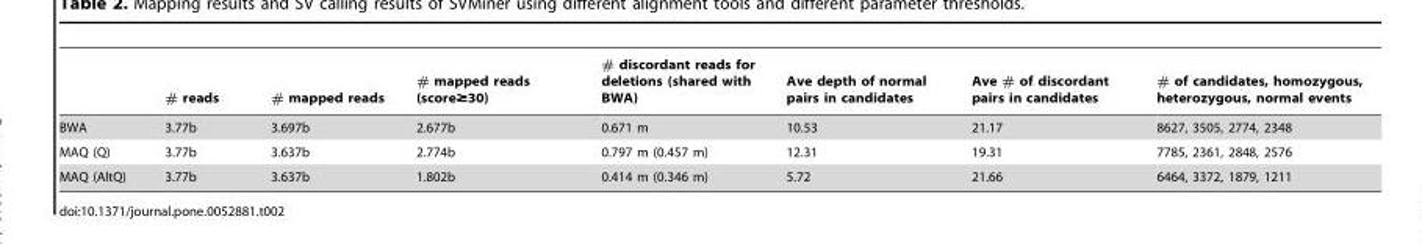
<table><thead><tr><td></td><td># reads</td><td># mapped reads</td><td># mapped reads (score≥30)</td><td># discordant reads for deletions (shared with BWA)</td><td>Ave depth of normal pairs in candidates</td><td>Ave # of discordant pairs in candidates</td><td># of candidates, homozygous, heterozygous, normal events</td></tr></thead><tbody><tr><td>BWA</td><td>3.77b</td><td>3.697b</td><td>2.677b</td><td>0.671 m</td><td>10.53</td><td>21.17</td><td>8627, 3505, 2774, 2348</td></tr><tr><td>MAQ (Q)</td><td>3.77b</td><td>3.637b</td><td>2.774b</td><td>0.797 m (0.457 m)</td><td>12.31</td><td>19.31</td><td>7785, 2361, 2848, 2576</td></tr><tr><td>MAQ (AltQ)</td><td>3.77b</td><td>3.637b</td><td>1.802b</td><td>0.414 m (0.346 m)</td><td>5.72</td><td>21.66</td><td>6464, 3372, 1879, 1211</td></tr></tbody></table>